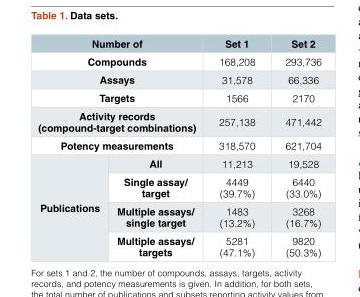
<table><thead><tr><td colspan="2">Number of</td><td>Set 1</td><td>Set 2</td></tr></thead><tbody><tr><td colspan="2">Compounds</td><td>168,208</td><td>293,736</td></tr><tr><td colspan="2">Assays</td><td>31,578</td><td>66,336</td></tr><tr><td colspan="2">Targets</td><td>1566</td><td>2170</td></tr><tr><td colspan="2">Activity records (compound-target combinations)</td><td>257,138</td><td>471,442</td></tr><tr><td colspan="2">Potency measurements</td><td>318,570</td><td>621,704</td></tr><tr><td rowspan="4">Publications</td><td>All</td><td>11,213</td><td>19,528</td></tr><tr><td>Single assay/ target</td><td>4449 (39.7%)</td><td>6440 (33.0%)</td></tr><tr><td>Multiple assays/ single target</td><td>1483 (13.2%)</td><td>3268 (16.7%)</td></tr><tr><td>Multiple assays/ targets</td><td>5281 (47.1%)</td><td>9820 (50.3%)</td></tr></tbody></table>